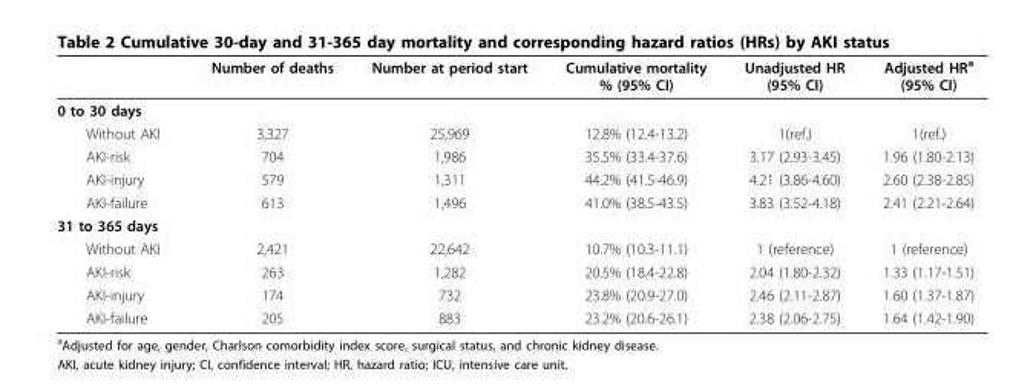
<table><thead><tr><td></td><td>Number of deaths</td><td>Number at period start</td><td>Cumulative mortality % (95% CI)</td><td>Unadjusted HR (95% CI)</td><td>Adjusted HR<sup>a</sup> (95% CI)</td></tr></thead><tbody><tr><td colspan="6">0 to 30 days</td></tr><tr><td>Without AKI</td><td>3,327</td><td>25,969</td><td>12.8% (12.4-13.2)</td><td>1(ref.)</td><td>1(ref.)</td></tr><tr><td>AKI-risk</td><td>704</td><td>1,986</td><td>35.5% (33.4-37.6)</td><td>3.17 (2.93-3.45)</td><td>1.96 (1.80-2.13)</td></tr><tr><td>AKI-injury</td><td>579</td><td>1,311</td><td>44.2% (41.5-46.9)</td><td>4.21 (3.86-4.60)</td><td>2.60 (2.38-2.85)</td></tr><tr><td>AKI-failure</td><td>613</td><td>1,496</td><td>41.0% (38.5-43.5)</td><td>3.83 (3.52-4.18)</td><td>2.41 (2.21-2.64)</td></tr><tr><td colspan="6">31 to 365 days</td></tr><tr><td>Without AKI</td><td>2,421</td><td>22,642</td><td>10.7% (10.3-11.1)</td><td>1 (reference)</td><td>1 (reference)</td></tr><tr><td>AKI-risk</td><td>263</td><td>1,282</td><td>20.5% (18.4-22.8)</td><td>2.04 (1.80-2.32)</td><td>1.33 (1.17-1.51)</td></tr><tr><td>AKI-injury</td><td>174</td><td>732</td><td>23.8% (20.9-27.0)</td><td>2.46 (2.11-2.87)</td><td>1.60 (1.37-1.87)</td></tr><tr><td>AKI-failure</td><td>205</td><td>883</td><td>23.2% (20.6-26.1)</td><td>2.38 (2.06-2.75)</td><td>1.64 (1.42-1.90)</td></tr></tbody></table>